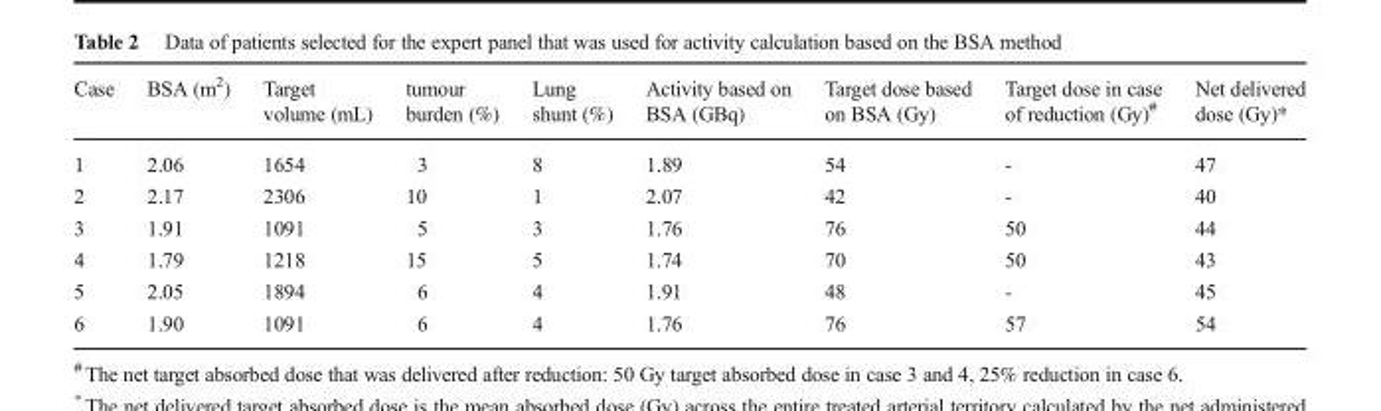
<table><thead><tr><td>Case</td><td>BSA (m<sup>2</sup>)</td><td>Target volume (mL)</td><td>tumour burden (%)</td><td>Lung shunt (%)</td><td>Activity based on BSA (GBq)</td><td>Target dose based on BSA (Gy)</td><td>Target dose in case of reduction (Gy)<sup>#</sup></td><td>Net delivered dose (Gy)*</td></tr></thead><tbody><tr><td>1</td><td>2.06</td><td>1654</td><td>3</td><td>8</td><td>1.89</td><td>54</td><td>-</td><td>47</td></tr><tr><td>2</td><td>2.17</td><td>2306</td><td>10</td><td>1</td><td>2.07</td><td>42</td><td>-</td><td>40</td></tr><tr><td>3</td><td>1.91</td><td>1091</td><td>5</td><td>3</td><td>1.76</td><td>76</td><td>50</td><td>44</td></tr><tr><td>4</td><td>1.79</td><td>1218</td><td>15</td><td>5</td><td>1.74</td><td>70</td><td>50</td><td>43</td></tr><tr><td>5</td><td>2.05</td><td>1894</td><td>6</td><td>4</td><td>1.91</td><td>48</td><td>-</td><td>45</td></tr><tr><td>6</td><td>1.90</td><td>1091</td><td>6</td><td>4</td><td>1.76</td><td>76</td><td>57</td><td>54</td></tr></tbody></table>